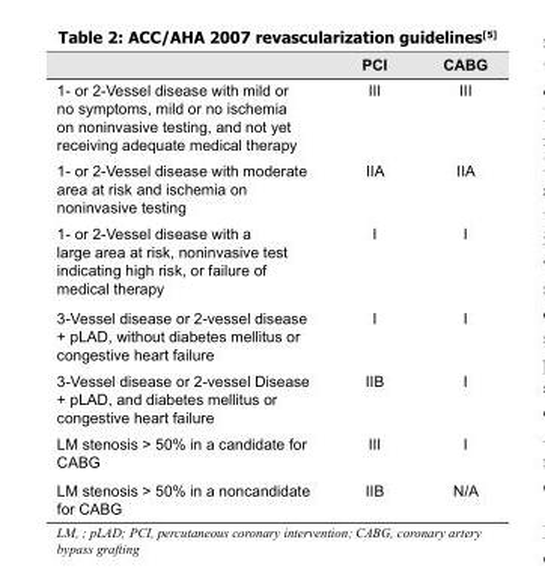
<table><thead><tr><td></td><td>PCI</td><td>CABG</td></tr></thead><tbody><tr><td>1- or 2-Vessel disease with mild or no symptoms, mild or no ischemia on noninvasive testing, and not yet receiving adequate medical therapy</td><td>III</td><td>III</td></tr><tr><td>1- or 2-Vessel disease with moderate area at risk and ischemia on noninvasive testing</td><td>IIA</td><td>IIA</td></tr><tr><td>1- or 2-Vessel disease with a large area at risk, noninvasive test indicating high risk, or failure of medical therapy</td><td>I</td><td>I</td></tr><tr><td>3-Vessel disease or 2-vessel disease + pLAD, without diabetes mellitus or congestive heart failure</td><td>I</td><td>I</td></tr><tr><td>3-Vessel disease or 2-vessel Disease + pLAD, and diabetes mellitus or congestive heart failure</td><td>IIB</td><td>I</td></tr><tr><td>LM stenosis &gt; 50% in a candidate for CABG</td><td>III</td><td>I</td></tr><tr><td>LM stenosis &gt; 50% in a noncandidate for CABG</td><td>IIB</td><td>N/A</td></tr></tbody></table>